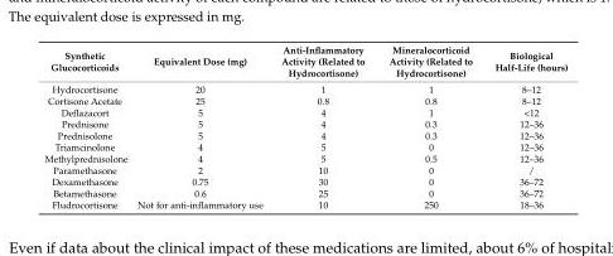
<table><thead><tr><td>Synthetic Glucocorticoids</td><td>Equivalent Dose (mg)</td><td>Anti-Inflammatory Activity (Related to Hydrocortisone)</td><td>Mineralocorticoid Activity (Related to Hydrocortisone)</td><td>Biological Half-Life (hours)</td></tr></thead><tbody><tr><td>Hydrocortisone</td><td>20</td><td>1</td><td>1</td><td>8–12</td></tr><tr><td>Cortisone Acetate</td><td>25</td><td>0.8</td><td>0.8</td><td>8–12</td></tr><tr><td>Deflazacort</td><td>5</td><td>4</td><td>1</td><td>&lt;12</td></tr><tr><td>Prednisone</td><td>5</td><td>4</td><td>0.3</td><td>12–36</td></tr><tr><td>Prednisolone</td><td>5</td><td>4</td><td>0.3</td><td>12–36</td></tr><tr><td>Triamcinolone</td><td>4</td><td>5</td><td>0</td><td>12–36</td></tr><tr><td>Methylprednisolone</td><td>4</td><td>5</td><td>0.5</td><td>12–36</td></tr><tr><td>Paramethasone</td><td>2</td><td>10</td><td>0</td><td>/</td></tr><tr><td>Dexamethasone</td><td>0.75</td><td>30</td><td>0</td><td>36–72</td></tr><tr><td>Betamethasone</td><td>0.6</td><td>25</td><td>0</td><td>36–72</td></tr><tr><td>Fludrocortisone</td><td>Not for anti-inflammatory use</td><td>10</td><td>250</td><td>18–36</td></tr></tbody></table>